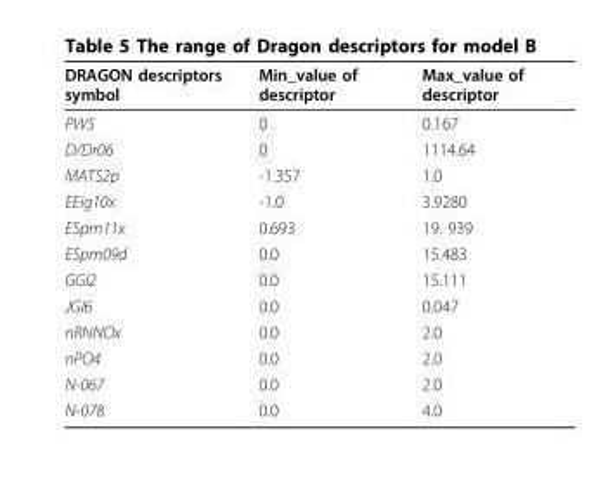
<table><thead><tr><td>DRAGON descriptors symbol</td><td>Min_value of descriptor</td><td>Max_value of descriptor</td></tr></thead><tbody><tr><td>PW5</td><td>0</td><td>0.167</td></tr><tr><td>D/Dr06</td><td>0</td><td>1114.64</td></tr><tr><td>MATS2p</td><td>-1.357</td><td>1.0</td></tr><tr><td>EEig10x</td><td>-1.0</td><td>3.9280</td></tr><tr><td>ESpm11x</td><td>0.693</td><td>19. 939</td></tr><tr><td>ESpm09d</td><td>0.0</td><td>15.483</td></tr><tr><td>GGI2</td><td>0.0</td><td>15.111</td></tr><tr><td>JGI6</td><td>0.0</td><td>0.047</td></tr><tr><td>nRNNOx</td><td>0.0</td><td>2.0</td></tr><tr><td>nPO4</td><td>0.0</td><td>2.0</td></tr><tr><td>N-067</td><td>0.0</td><td>2.0</td></tr><tr><td>N-078</td><td>0.0</td><td>4.0</td></tr></tbody></table>